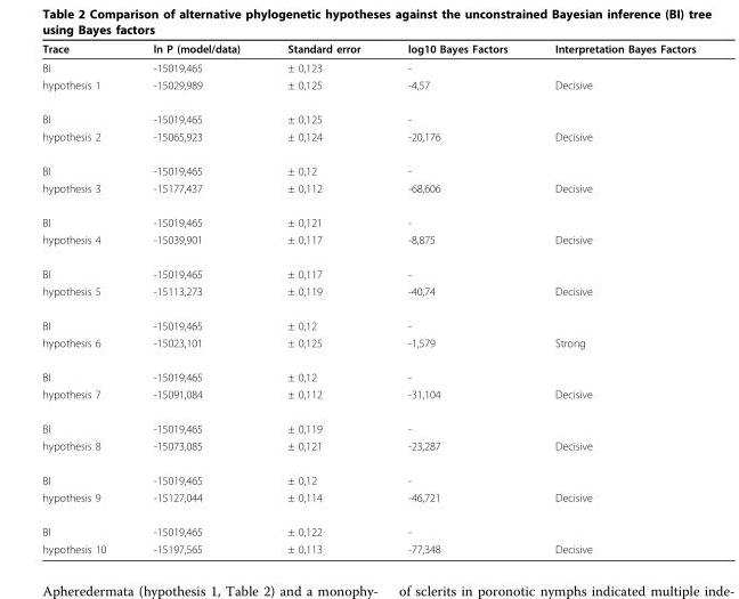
<table><thead><tr><td>Trace</td><td>ln P (model/data)</td><td>Standard error</td><td>log10 Bayes Factors</td><td>Interpretation Bayes Factors</td></tr></thead><tbody><tr><td>BI</td><td>-15019,465</td><td>± 0,123</td><td>-</td><td></td></tr><tr><td>hypothesis 1</td><td>-15029,989</td><td>± 0,125</td><td>-4,57</td><td>Decisive</td></tr><tr><td>BI</td><td>-15019,465</td><td>± 0,125</td><td>-</td><td></td></tr><tr><td>hypothesis 2</td><td>-15065,923</td><td>± 0,124</td><td>-20,176</td><td>Decisive</td></tr><tr><td>BI</td><td>-15019,465</td><td>± 0,12</td><td>-</td><td></td></tr><tr><td>hypothesis 3</td><td>-15177,437</td><td>± 0,112</td><td>-68,606</td><td>Decisive</td></tr><tr><td>BI</td><td>-15019,465</td><td>± 0,121</td><td>-</td><td></td></tr><tr><td>hypothesis 4</td><td>-15039,901</td><td>± 0,117</td><td>-8,875</td><td>Decisive</td></tr><tr><td>BI</td><td>-15019,465</td><td>± 0,117</td><td>-</td><td></td></tr><tr><td>hypothesis 5</td><td>-15113,273</td><td>± 0,119</td><td>-40,74</td><td>Decisive</td></tr><tr><td>BI</td><td>-15019,465</td><td>± 0,12</td><td>-</td><td></td></tr><tr><td>hypothesis 6</td><td>-15023,101</td><td>± 0,125</td><td>-1,579</td><td>Strong</td></tr><tr><td>BI</td><td>-15019,465</td><td>± 0,12</td><td>-</td><td></td></tr><tr><td>hypothesis 7</td><td>-15091,084</td><td>± 0,112</td><td>-31,104</td><td>Decisive</td></tr><tr><td>BI</td><td>-15019,465</td><td>± 0,119</td><td>-</td><td></td></tr><tr><td>hypothesis 8</td><td>-15073,085</td><td>± 0,121</td><td>-23,287</td><td>Decisive</td></tr><tr><td>BI</td><td>-15019,465</td><td>± 0,12</td><td>-</td><td></td></tr><tr><td>hypothesis 9</td><td>-15127,044</td><td>± 0,114</td><td>-46,721</td><td>Decisive</td></tr><tr><td>BI</td><td>-15019,465</td><td>± 0,122</td><td>-</td><td></td></tr><tr><td>hypothesis 10</td><td>-15197,565</td><td>± 0,113</td><td>-77,348</td><td>Decisive</td></tr></tbody></table>